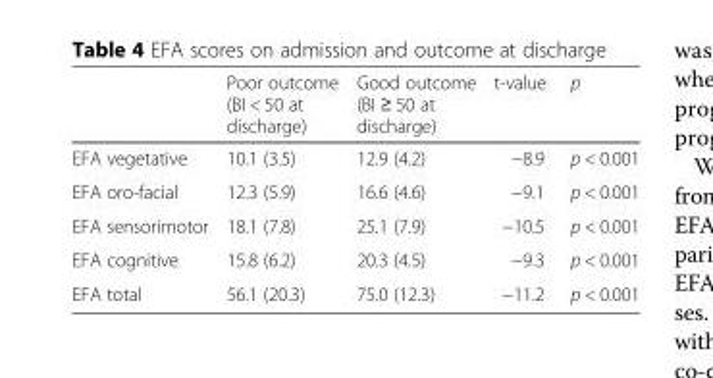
<table><thead><tr><td></td><td>Poor outcome (BI &lt; 50 at discharge)</td><td>Good outcome (BI ≥ 50 at discharge)</td><td>t-value</td><td>p</td></tr></thead><tbody><tr><td>EFA vegetative</td><td>10.1 (3.5)</td><td>12.9 (4.2)</td><td>−8.9</td><td>p &lt; 0.001</td></tr><tr><td>EFA oro-facial</td><td>12.3 (5.9)</td><td>16.6 (4.6)</td><td>−9.1</td><td>p &lt; 0.001</td></tr><tr><td>EFA sensorimotor</td><td>18.1 (7.8)</td><td>25.1 (7.9)</td><td>−10.5</td><td>p &lt; 0.001</td></tr><tr><td>EFA cognitive</td><td>15.8 (6.2)</td><td>20.3 (4.5)</td><td>−9.3</td><td>p &lt; 0.001</td></tr><tr><td>EFA total</td><td>56.1 (20.3)</td><td>75.0 (12.3)</td><td>−11.2</td><td>p &lt; 0.001</td></tr></tbody></table>